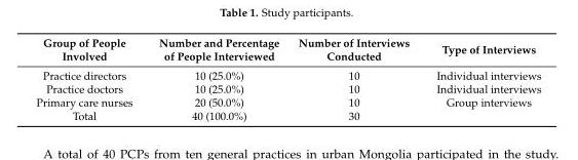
<table><thead><tr><td>Group of People Involved</td><td>Number and Percentage of People Interviewed</td><td>Number of Interviews Conducted</td><td>Type of Interviews</td></tr></thead><tbody><tr><td>Practice directors</td><td>10 (25.0%)</td><td>10</td><td>Individual interviews</td></tr><tr><td>Practice doctors</td><td>10 (25.0%)</td><td>10</td><td>Individual interviews</td></tr><tr><td>Primary care nurses</td><td>20 (50.0%)</td><td>10</td><td>Group interviews</td></tr><tr><td>Total</td><td>40 (100.0%)</td><td>30</td><td></td></tr></tbody></table>